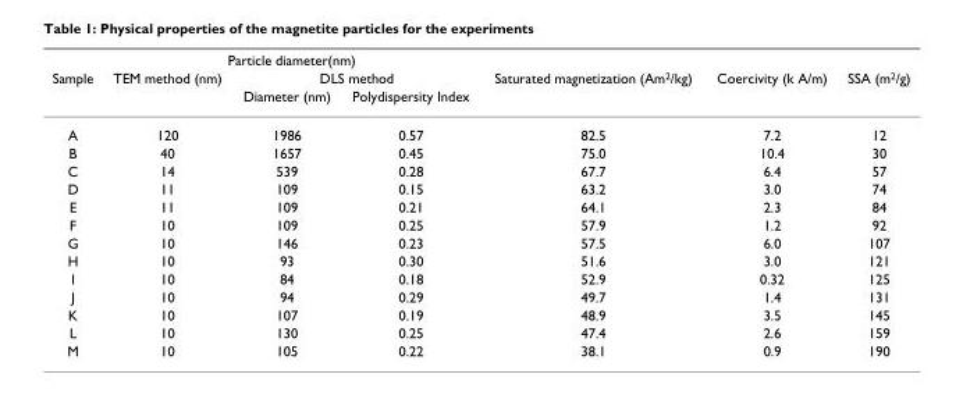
<table><thead><tr><td rowspan="3">Sample</td><td colspan="3">Particle diameter(nm)</td><td rowspan="3">Saturated magnetization (Am<sup>2</sup>/kg)</td><td rowspan="3">Coercivity (k A/m)</td><td rowspan="3">SSA (m<sup>2</sup>/g)</td></tr><tr><td rowspan="2">TEM method (nm)</td><td colspan="2">DLS method</td></tr><tr><td>Diameter (nm)</td><td>Polydispersity Index</td></tr></thead><tbody><tr><td>A</td><td>120</td><td>1986</td><td>0.57</td><td>82.5</td><td>7.2</td><td>12</td></tr><tr><td>B</td><td>40</td><td>1657</td><td>0.45</td><td>75.0</td><td>10.4</td><td>30</td></tr><tr><td>C</td><td>14</td><td>539</td><td>0.28</td><td>67.7</td><td>6.4</td><td>57</td></tr><tr><td>D</td><td>11</td><td>109</td><td>0.15</td><td>63.2</td><td>3.0</td><td>74</td></tr><tr><td>E</td><td>11</td><td>109</td><td>0.21</td><td>64.1</td><td>2.3</td><td>84</td></tr><tr><td>F</td><td>10</td><td>109</td><td>0.25</td><td>57.9</td><td>1.2</td><td>92</td></tr><tr><td>G</td><td>10</td><td>146</td><td>0.23</td><td>57.5</td><td>6.0</td><td>107</td></tr><tr><td>H</td><td>10</td><td>93</td><td>0.30</td><td>51.6</td><td>3.0</td><td>121</td></tr><tr><td>I</td><td>10</td><td>84</td><td>0.18</td><td>52.9</td><td>0.32</td><td>125</td></tr><tr><td>J</td><td>10</td><td>94</td><td>0.29</td><td>49.7</td><td>1.4</td><td>131</td></tr><tr><td>K</td><td>10</td><td>107</td><td>0.19</td><td>48.9</td><td>3.5</td><td>145</td></tr><tr><td>L</td><td>10</td><td>130</td><td>0.25</td><td>47.4</td><td>2.6</td><td>159</td></tr><tr><td>M</td><td>10</td><td>105</td><td>0.22</td><td>38.1</td><td>0.9</td><td>190</td></tr></tbody></table>